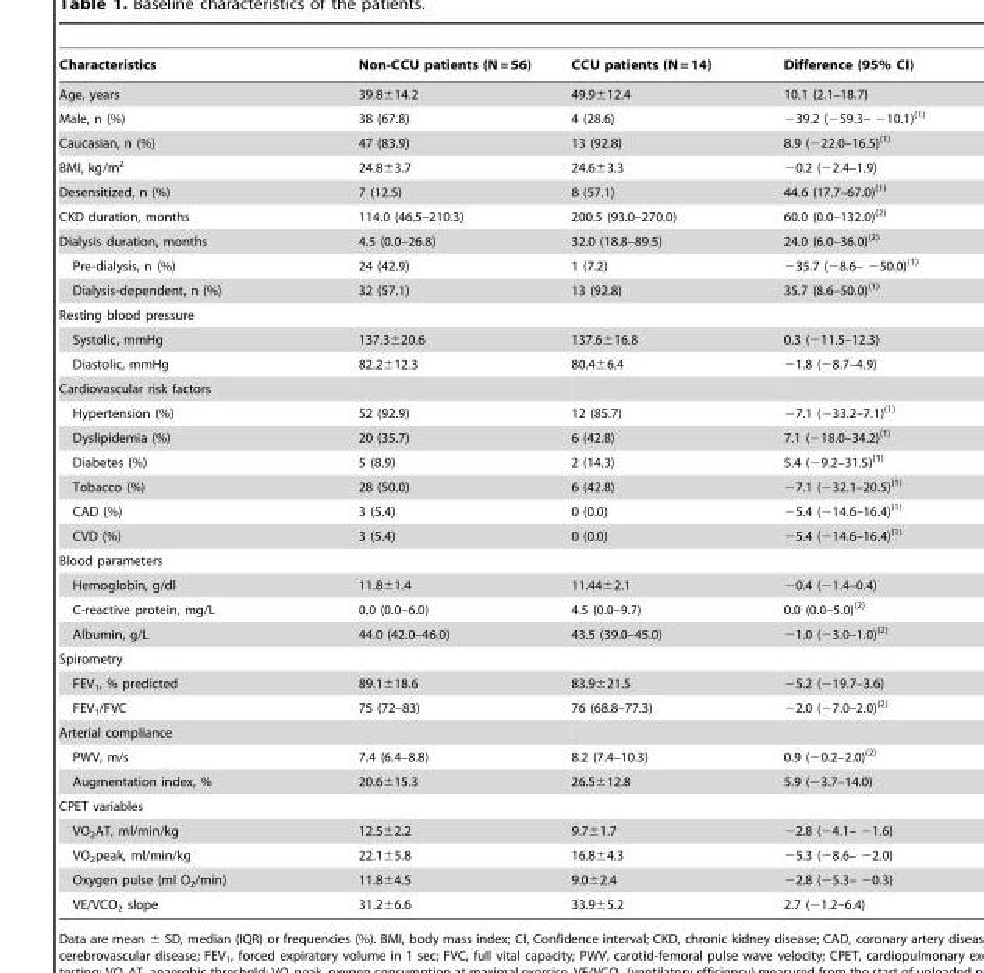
<table><thead><tr><td>Characteristics</td><td>Non-CCU patients (N = 56)</td><td>CCU patients (N = 14)</td><td>Difference (95% CI)</td></tr></thead><tbody><tr><td>Age, years</td><td>39.8±14.2</td><td>49.9±12.4</td><td>10.1 (2.1–18.7)</td></tr><tr><td>Male, n (%)</td><td>38 (67.8)</td><td>4 (28.6)</td><td>−39.2 (−59.3– −10.1)<sup>(1)</sup></td></tr><tr><td>Caucasian, n (%)</td><td>47 (83.9)</td><td>13 (92.8)</td><td>8.9 (−22.0–16.5)<sup>(1)</sup></td></tr><tr><td>BMI, kg/m<sup>2</sup></td><td>24.8±3.7</td><td>24.6±3.3</td><td>−0.2 (−2.4–1.9)</td></tr><tr><td>Desensitized, n (%)</td><td>7 (12.5)</td><td>8 (57.1)</td><td>44.6 (17.7–67.0)<sup>(1)</sup></td></tr><tr><td>CKD duration, months</td><td>114.0 (46.5–210.3)</td><td>200.5 (93.0–270.0)</td><td>60.0 (0.0–132.0)<sup>(2)</sup></td></tr><tr><td>Dialysis duration, months</td><td>4.5 (0.0–26.8)</td><td>32.0 (18.8–89.5)</td><td>24.0 (6.0–36.0)<sup>(2)</sup></td></tr><tr><td>Pre-dialysis, n (%)</td><td>24 (42.9)</td><td>1 (7.2)</td><td>−35.7 (−8.6– −50.0)<sup>(1)</sup></td></tr><tr><td>Dialysis-dependent, n (%)</td><td>32 (57.1)</td><td>13 (92.8)</td><td>35.7 (8.6–50.0)<sup>(1)</sup></td></tr><tr><td colspan="4">Resting blood pressure</td></tr><tr><td>Systolic, mmHg</td><td>137.3±20.6</td><td>137.6±16.8</td><td>0.3 (−11.5–12.3)</td></tr><tr><td>Diastolic, mmHg</td><td>82.2±12.3</td><td>80.4±6.4</td><td>−1.8 (−8.7–4.9)</td></tr><tr><td colspan="4">Cardiovascular risk factors</td></tr><tr><td>Hypertension (%)</td><td>52 (92.9)</td><td>12 (85.7)</td><td>−7.1 (−33.2–7.1)<sup>(1)</sup></td></tr><tr><td>Dyslipidemia (%)</td><td>20 (35.7)</td><td>6 (42.8)</td><td>7.1 (−18.0–34.2)<sup>(1)</sup></td></tr><tr><td>Diabetes (%)</td><td>5 (8.9)</td><td>2 (14.3)</td><td>5.4 (−9.2–31.5)<sup>(1)</sup></td></tr><tr><td>Tobacco (%)</td><td>28 (50.0)</td><td>6 (42.8)</td><td>−7.1 (−32.1–20.5)<sup>(1)</sup></td></tr><tr><td>CAD (%)</td><td>3 (5.4)</td><td>0 (0.0)</td><td>−5.4 (−14.6–16.4)<sup>(1)</sup></td></tr><tr><td>CVD (%)</td><td>3 (5.4)</td><td>0 (0.0)</td><td>−5.4 (−14.6–16.4)<sup>(1)</sup></td></tr><tr><td colspan="4">Blood parameters</td></tr><tr><td>Hemoglobin, g/dl</td><td>11.8±1.4</td><td>11.44±2.1</td><td>−0.4 (−1.4–0.4)</td></tr><tr><td>C-reactive protein, mg/L</td><td>0.0 (0.0–6.0)</td><td>4.5 (0.0–9.7)</td><td>0.0 (0.0–5.0)<sup>(2)</sup></td></tr><tr><td>Albumin, g/L</td><td>44.0 (42.0–46.0)</td><td>43.5 (39.0–45.0)</td><td>−1.0 (−3.0–1.0)<sup>(2)</sup></td></tr><tr><td colspan="4">Spirometry</td></tr><tr><td>FEV<sub>1</sub>, % predicted</td><td>89.1±18.6</td><td>83.9±21.5</td><td>−5.2 (−19.7–3.6)</td></tr><tr><td>FEV<sub>1</sub>/FVC</td><td>75 (72–83)</td><td>76 (68.8–77.3)</td><td>−2.0 (−7.0–2.0)<sup>(2)</sup></td></tr><tr><td colspan="4">Arterial compliance</td></tr><tr><td>PWV, m/s</td><td>7.4 (6.4–8.8)</td><td>8.2 (7.4–10.3)</td><td>0.9 (−0.2–2.0)<sup>(2)</sup></td></tr><tr><td>Augmentation index, %</td><td>20.6±15.3</td><td>26.5±12.8</td><td>5.9 (−3.7–14.0)</td></tr><tr><td colspan="4">CPET variables</td></tr><tr><td>VO<sub>2</sub>AT, ml/min/kg</td><td>12.5±2.2</td><td>9.7±1.7</td><td>−2.8 (−4.1– −1.6)</td></tr><tr><td>VO<sub>2</sub>peak, ml/min/kg</td><td>22.1±5.8</td><td>16.8±4.3</td><td>−5.3 (−8.6– −2.0)</td></tr><tr><td>Oxygen pulse (ml O<sub>2</sub>/min)</td><td>11.8±4.5</td><td>9.0±2.4</td><td>−2.8 (−5.3– −0.3)</td></tr><tr><td>VE/VCO<sub>2</sub> slope</td><td>31.2±6.6</td><td>33.9±5.2</td><td>2.7 (−1.2–6.4)</td></tr></tbody></table>